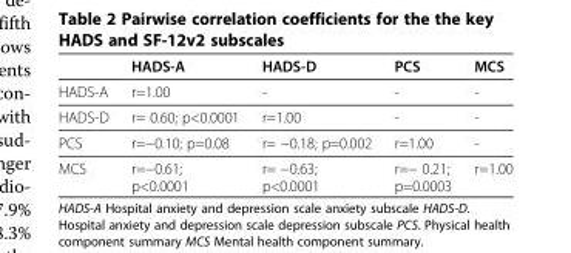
<table><thead><tr><td></td><td>HADS-A</td><td>HADS-D</td><td>PCS</td><td>MCS</td></tr></thead><tbody><tr><td>HADS-A</td><td>r=1.00</td><td>-</td><td>-</td><td>-</td></tr><tr><td>HADS-D</td><td>r= 0.60; p&lt;0.0001</td><td>r=1.00</td><td>-</td><td>-</td></tr><tr><td>PCS</td><td>r=−0.10; p=0.08</td><td>r= −0.18; p=0.002</td><td>r=1.00</td><td>-</td></tr><tr><td>MCS</td><td>r=−0.61; p&lt;0.0001</td><td>r= −0.63; p&lt;0.0001</td><td>r=− 0.21; p=0.0003</td><td>r=1.00</td></tr></tbody></table>